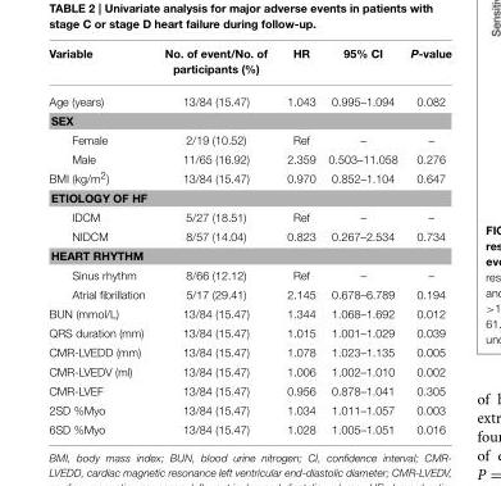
<table><thead><tr><td>Variable</td><td>No. of event/No. of participants (%)</td><td>HR</td><td>95% CI</td><td>P-value</td></tr></thead><tbody><tr><td>Age (years)</td><td>13/84 (15.47)</td><td>1.043</td><td>0.995–1.094</td><td>0.082</td></tr><tr><td colspan="5">SEX</td></tr><tr><td>Female</td><td>2/19 (10.52)</td><td>Ref</td><td>–</td><td>–</td></tr><tr><td>Male</td><td>11/65 (16.92)</td><td>2.359</td><td>0.503–11.058</td><td>0.276</td></tr><tr><td>BMI (kg/m<sup>2</sup>)</td><td>13/84 (15.47)</td><td>0.970</td><td>0.852–1.104</td><td>0.647</td></tr><tr><td colspan="5">ETIOLOGY OF HF</td></tr><tr><td>IDCM</td><td>5/27 (18.51)</td><td>Ref</td><td>–</td><td>–</td></tr><tr><td>NIDCM</td><td>8/57 (14.04)</td><td>0.823</td><td>0.267–2.534</td><td>0.734</td></tr><tr><td colspan="5">HEART RHYTHM</td></tr><tr><td>Sinus rhythm</td><td>8/66 (12.12)</td><td>Ref</td><td>–</td><td>–</td></tr><tr><td>Atrial fibrillation</td><td>5/17 (29.41)</td><td>2.145</td><td>0.678–6.789</td><td>0.194</td></tr><tr><td>BUN (mmol/L)</td><td>13/84 (15.47)</td><td>1.344</td><td>1.068–1.692</td><td>0.012</td></tr><tr><td>QRS duration (mm)</td><td>13/84 (15.47)</td><td>1.015</td><td>1.001–1.029</td><td>0.039</td></tr><tr><td>CMR-LVEDD (mm)</td><td>13/84 (15.47)</td><td>1.078</td><td>1.023–1.135</td><td>0.005</td></tr><tr><td>CMR-LVEDV (ml)</td><td>13/84 (15.47)</td><td>1.006</td><td>1.002–1.010</td><td>0.002</td></tr><tr><td>CMR-LVEF</td><td>13/84 (15.47)</td><td>0.956</td><td>0.878–1.041</td><td>0.305</td></tr><tr><td>2SD %Myo</td><td>13/84 (15.47)</td><td>1.034</td><td>1.011–1.057</td><td>0.003</td></tr><tr><td>6SD %Myo</td><td>13/84 (15.47)</td><td>1.028</td><td>1.005–1.051</td><td>0.016</td></tr></tbody></table>